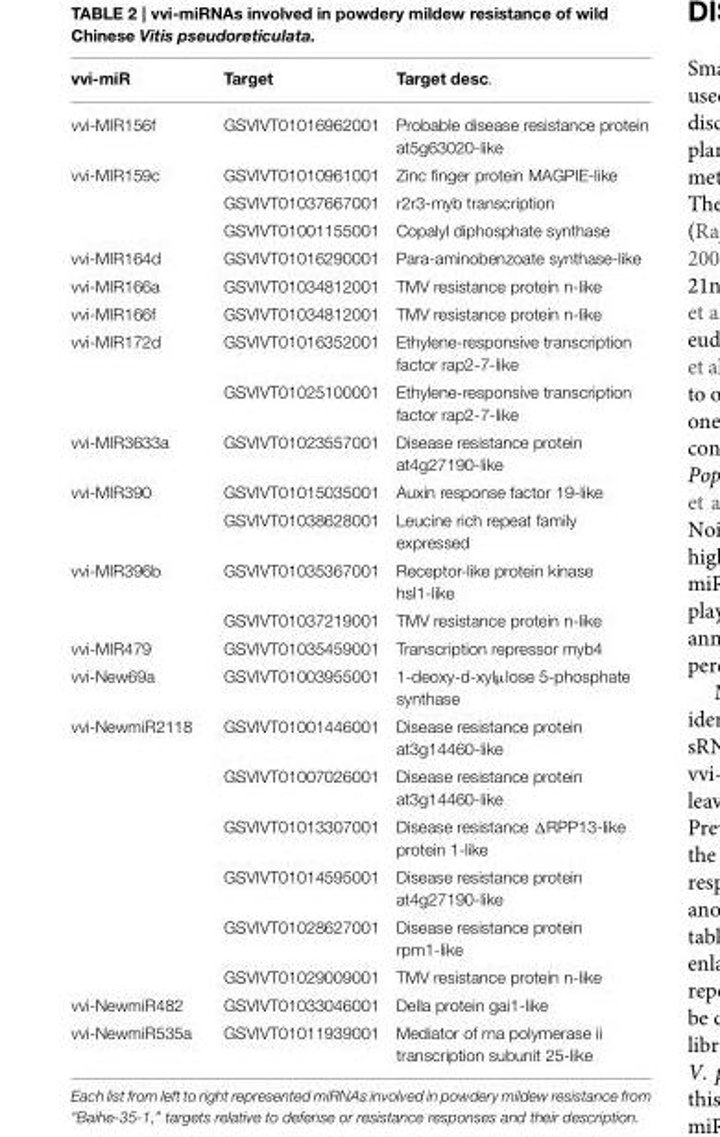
<table><thead><tr><td>vvi-miR</td><td>Target</td><td>Target desc.</td></tr></thead><tbody><tr><td>vvi-MIR156f</td><td>GSVIVT01016962001</td><td>Probable disease resistance protein at5g63020-like</td></tr><tr><td rowspan="3">vvi-MIR159c</td><td>GSVIVT01010961001</td><td>Zinc finger protein MAGPIE-like</td></tr><tr><td>GSVIVT01037667001</td><td>r2r3-myb transcription</td></tr><tr><td>GSVIVT01001155001</td><td>Copalyl diphosphate synthase</td></tr><tr><td>vvi-MIR164d</td><td>GSVIVT01016290001</td><td>Para-aminobenzoate synthase-like</td></tr><tr><td>vvi-MIR166a</td><td>GSVIVT01034812001</td><td>TMV resistance protein n-like</td></tr><tr><td>vvi-MIR166f</td><td>GSVIVT01034812001</td><td>TMV resistance protein n-like</td></tr><tr><td rowspan="2">vvi-MIR172d</td><td>GSVIVT01016352001</td><td>Ethylene-responsive transcription factor rap2-7-like</td></tr><tr><td>GSVIVT01025100001</td><td>Ethylene-responsive transcription factor rap2-7-like</td></tr><tr><td>vvi-MIR3633a</td><td>GSVIVT01023557001</td><td>Disease resistance protein at4g27190-like</td></tr><tr><td rowspan="2">vvi-MIR390</td><td>GSVIVT01015035001</td><td>Auxin response factor 19-like</td></tr><tr><td>GSVIVT01038628001</td><td>Leucine rich repeat family expressed</td></tr><tr><td rowspan="2">vvi-MIR396b</td><td>GSVIVT01035367001</td><td>Receptor-like protein kinase hsl1-like</td></tr><tr><td>GSVIVT01037219001</td><td>TMV resistance protein n-like</td></tr><tr><td>vvi-MIR479</td><td>GSVIVT01035459001</td><td>Transcription repressor myb4</td></tr><tr><td>vvi-New69a</td><td>GSVIVT01003955001</td><td>1-deoxy-d-xylµlose 5-phosphate synthase</td></tr><tr><td rowspan="6">vvi-NewmiR2118</td><td>GSVIVT01001446001</td><td>Disease resistance protein at3g14460-like</td></tr><tr><td>GSVIVT01007026001</td><td>Disease resistance protein at3g14460-like</td></tr><tr><td>GSVIVT01013307001</td><td>Disease resistance ΔRPP13-like protein 1-like</td></tr><tr><td>GSVIVT01014595001</td><td>Disease resistance protein at4g27190-like</td></tr><tr><td>GSVIVT01028627001</td><td>Disease resistance protein rpm1-like</td></tr><tr><td>GSVIVT01029009001</td><td>TMV resistance protein n-like</td></tr><tr><td>vvi-NewmiR482</td><td>GSVIVT01033046001</td><td>Della protein gai1-like</td></tr><tr><td>vvi-NewmiR535a</td><td>GSVIVT01011939001</td><td>Mediator of rna polymerase ii transcription subunit 25-like</td></tr></tbody></table>